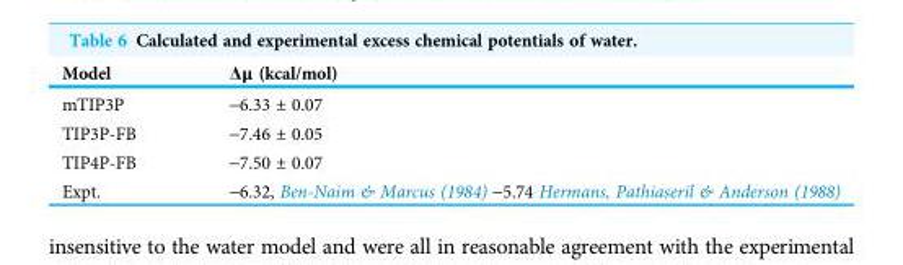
<table><thead><tr><td>Model</td><td>Δμ (kcal/mol)</td></tr></thead><tbody><tr><td>mTIP3P</td><td>-6.33 ± 0.07</td></tr><tr><td>TIP3P-FB</td><td>-7.46 ± 0.05</td></tr><tr><td>TIP4P-FB</td><td>-7.50 ± 0.07</td></tr><tr><td>Expt.</td><td>-6.32, Ben-Naim &amp; Marcus (1984) -5.74 Hermans, Pathiaseril &amp; Anderson (1988)</td></tr></tbody></table>